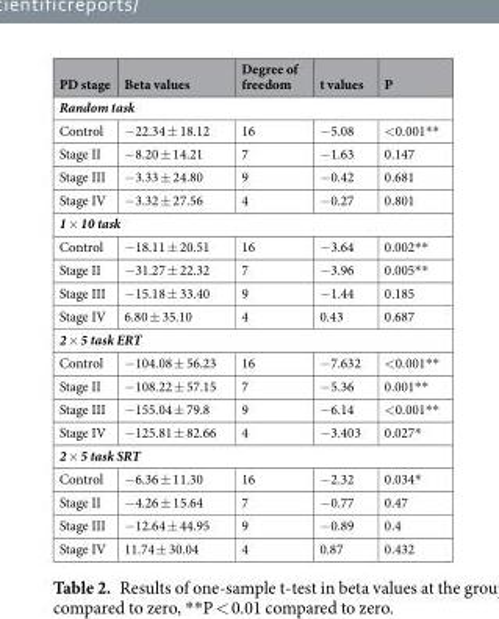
<table><thead><tr><td>PD stage</td><td>Beta values</td><td>Degree of freedom</td><td>t values</td><td>P</td></tr></thead><tbody><tr><td colspan="5">Random task</td></tr><tr><td>Control</td><td>−22.34 ± 18.12</td><td>16</td><td>−5.08</td><td>&lt;0.001**</td></tr><tr><td>Stage II</td><td>−8.20 ± 14.21</td><td>7</td><td>−1.63</td><td>0.147</td></tr><tr><td>Stage III</td><td>−3.33 ± 24.80</td><td>9</td><td>−0.42</td><td>0.681</td></tr><tr><td>Stage IV</td><td>−3.32 ± 27.56</td><td>4</td><td>−0.27</td><td>0.801</td></tr><tr><td colspan="5">1 × 10 task</td></tr><tr><td>Control</td><td>−18.11 ± 20.51</td><td>16</td><td>−3.64</td><td>0.002**</td></tr><tr><td>Stage II</td><td>−31.27 ± 22.32</td><td>7</td><td>−3.96</td><td>0.005**</td></tr><tr><td>Stage III</td><td>−15.18 ± 33.40</td><td>9</td><td>−1.44</td><td>0.185</td></tr><tr><td>Stage IV</td><td>6.80 ± 35.10</td><td>4</td><td>0.43</td><td>0.687</td></tr><tr><td colspan="5">2 × 5 task ERT</td></tr><tr><td>Control</td><td>−104.08 ± 56.23</td><td>16</td><td>−7.632</td><td>&lt;0.001**</td></tr><tr><td>Stage II</td><td>−108.22 ± 57.15</td><td>7</td><td>−5.36</td><td>0.001**</td></tr><tr><td>Stage III</td><td>−155.04 ± 79.8</td><td>9</td><td>−6.14</td><td>&lt;0.001**</td></tr><tr><td>Stage IV</td><td>−125.81 ± 82.66</td><td>4</td><td>−3.403</td><td>0.027*</td></tr><tr><td colspan="5">2 × 5 task SRT</td></tr><tr><td>Control</td><td>−6.36 ± 11.30</td><td>16</td><td>−2.32</td><td>0.034*</td></tr><tr><td>Stage II</td><td>−4.26 ± 15.64</td><td>7</td><td>−0.77</td><td>0.47</td></tr><tr><td>Stage III</td><td>−12.64 ± 44.95</td><td>9</td><td>−0.89</td><td>0.4</td></tr><tr><td>Stage IV</td><td>11.74 ± 30.04</td><td>4</td><td>0.87</td><td>0.432</td></tr></tbody></table>